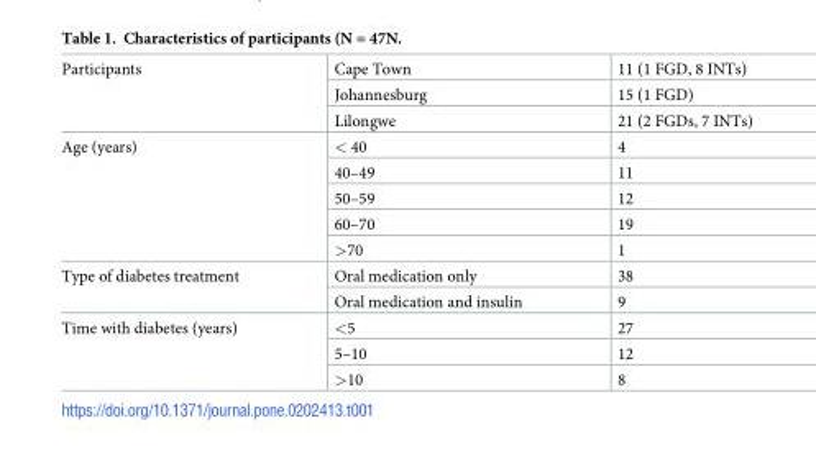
<table><tbody><tr><td rowspan="3">Participants</td><td>Cape Town</td><td>11 (1 FGD, 8 INTs)</td></tr><tr><td>Johannesburg</td><td>15 (1 FGD)</td></tr><tr><td>Lilongwe</td><td>21 (2 FGDs, 7 INTs)</td></tr><tr><td rowspan="5">Age (years)</td><td>&lt; 40</td><td>4</td></tr><tr><td>40–49</td><td>11</td></tr><tr><td>50–59</td><td>12</td></tr><tr><td>60–70</td><td>19</td></tr><tr><td>&gt;70</td><td>1</td></tr><tr><td rowspan="2">Type of diabetes treatment</td><td>Oral medication only</td><td>38</td></tr><tr><td>Oral medication and insulin</td><td>9</td></tr><tr><td rowspan="3">Time with diabetes (years)</td><td>&lt;5</td><td>27</td></tr><tr><td>5–10</td><td>12</td></tr><tr><td>&gt;10</td><td>8</td></tr></tbody></table>